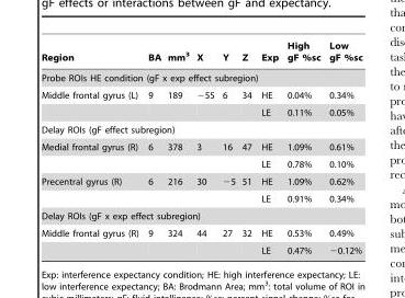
<table><thead><tr><td>Region</td><td>BA</td><td>mm<sup>3</sup></td><td>X</td><td>Y</td><td>Z</td><td>Exp</td><td>High gF %sc</td><td>Low gF %sc</td></tr></thead><tbody><tr><td colspan="9">Probe ROIs HE condition (gF x exp effect subregion)</td></tr><tr><td rowspan="2">Middle frontal gyrus (L)</td><td>9</td><td>189</td><td>−55</td><td>6</td><td>34</td><td>HE</td><td>0.04%</td><td>0.34%</td></tr><tr><td></td><td></td><td></td><td></td><td></td><td>LE</td><td>0.11%</td><td>0.05%</td></tr><tr><td colspan="9">Delay ROIs (gF effect subregion)</td></tr><tr><td rowspan="2">Medial frontal gyrus (R)</td><td>6</td><td>378</td><td>3</td><td>16</td><td>47</td><td>HE</td><td>1.09%</td><td>0.61%</td></tr><tr><td></td><td></td><td></td><td></td><td></td><td>LE</td><td>0.78%</td><td>0.10%</td></tr><tr><td rowspan="2">Precentral gyrus (R)</td><td>6</td><td>216</td><td>30</td><td>−5</td><td>51</td><td>HE</td><td>1.09%</td><td>0.62%</td></tr><tr><td></td><td></td><td></td><td></td><td></td><td>LE</td><td>0.91%</td><td>0.34%</td></tr><tr><td colspan="9">Delay ROIs (gF x exp effect subregion)</td></tr><tr><td rowspan="2">Middle frontal gyrus (R)</td><td>9</td><td>324</td><td>44</td><td>27</td><td>32</td><td>HE</td><td>0.53%</td><td>0.49%</td></tr><tr><td></td><td></td><td></td><td></td><td></td><td>LE</td><td>0.47%</td><td>−0.12%</td></tr></tbody></table>